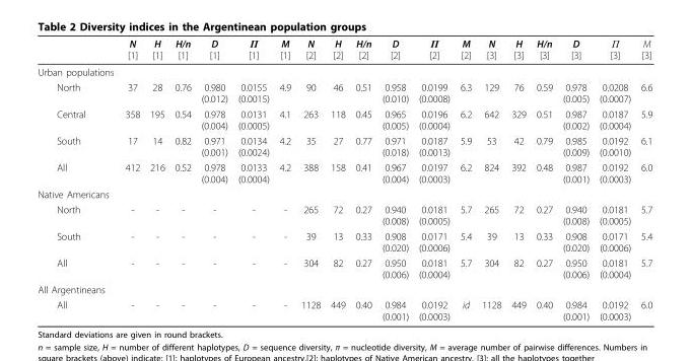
<table><thead><tr><td></td><td>N [1]</td><td>H [1]</td><td>H/n [1]</td><td>D [1]</td><td>Π [1]</td><td>M [1]</td><td>N [2]</td><td>H [2]</td><td>H/n [2]</td><td>D [2]</td><td>Π [2]</td><td>M [2]</td><td>N [3]</td><td>H [3]</td><td>H/n [3]</td><td>D [3]</td><td>Π [3]</td><td>M [3]</td></tr></thead><tbody><tr><td colspan="19">Urban populations</td></tr><tr><td>North</td><td>37</td><td>28</td><td>0.76</td><td>0.980 (0.012)</td><td>0.0155 (0.0015)</td><td>4.9</td><td>90</td><td>46</td><td>0.51</td><td>0.958 (0.010)</td><td>0.0199 (0.0008)</td><td>6.3</td><td>129</td><td>76</td><td>0.59</td><td>0.978 (0.005)</td><td>0.0208 (0.0007)</td><td>6.6</td></tr><tr><td>Central</td><td>358</td><td>195</td><td>0.54</td><td>0.978 (0.004)</td><td>0.0131 (0.0005)</td><td>4.1</td><td>263</td><td>118</td><td>0.45</td><td>0.965 (0.005)</td><td>0.0196 (0.0004)</td><td>6.2</td><td>642</td><td>329</td><td>0.51</td><td>0.987 (0.002)</td><td>0.0187 (0.0004)</td><td>5.9</td></tr><tr><td>South</td><td>17</td><td>14</td><td>0.82</td><td>0.971 (0.001)</td><td>0.0134 (0.0024)</td><td>4.2</td><td>35</td><td>27</td><td>0.77</td><td>0.971 (0.018)</td><td>0.0187 (0.0013)</td><td>5.9</td><td>53</td><td>42</td><td>0.79</td><td>0.985 (0.009)</td><td>0.0192 (0.0010)</td><td>6.1</td></tr><tr><td>All</td><td>412</td><td>216</td><td>0.52</td><td>0.978 (0.004)</td><td>0.0133 (0.0004)</td><td>4.2</td><td>388</td><td>158</td><td>0.41</td><td>0.967 (0.004)</td><td>0.0197 (0.0003)</td><td>6.2</td><td>824</td><td>392</td><td>0.48</td><td>0.987 (0.001)</td><td>0.0192 (0.0003)</td><td>6.0</td></tr><tr><td colspan="19">Native Americans</td></tr><tr><td>North</td><td>-</td><td>-</td><td>-</td><td>-</td><td>-</td><td>-</td><td>265</td><td>72</td><td>0.27</td><td>0.940 (0.008)</td><td>0.0181 (0.0005)</td><td>5.7</td><td>265</td><td>72</td><td>0.27</td><td>0.940 (0.008)</td><td>0.0181 (0.0005)</td><td>5.7</td></tr><tr><td>South</td><td>-</td><td>-</td><td>-</td><td>-</td><td>-</td><td>-</td><td>39</td><td>13</td><td>0.33</td><td>0.908 (0.020)</td><td>0.0171 (0.0006)</td><td>5.4</td><td>39</td><td>13</td><td>0.33</td><td>0.908 (0.020)</td><td>0.0171 (0.0006)</td><td>5.4</td></tr><tr><td>All</td><td>-</td><td>-</td><td>-</td><td>-</td><td>-</td><td>-</td><td>304</td><td>82</td><td>0.27</td><td>0.950 (0.006)</td><td>0.0181 (0.0004)</td><td>5.7</td><td>304</td><td>82</td><td>0.27</td><td>0.950 (0.006)</td><td>0.0181 (0.0004)</td><td>5.7</td></tr><tr><td colspan="19">All Argentineans</td></tr><tr><td>All</td><td>-</td><td>-</td><td>-</td><td>-</td><td>-</td><td>-</td><td>1128</td><td>449</td><td>0.40</td><td>0.984 (0.001)</td><td>0.0192 (0.0003)</td><td>id</td><td>1128</td><td>449</td><td>0.40</td><td>0.984 (0.001)</td><td>0.0192 (0.0003)</td><td>6.0</td></tr></tbody></table>